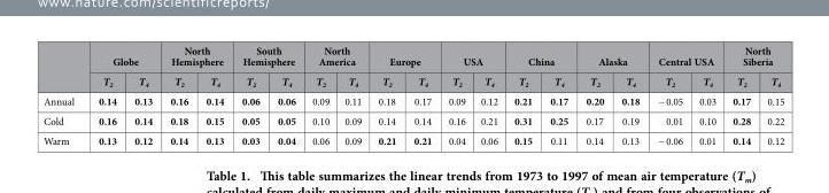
<table><thead><tr><td rowspan="2"></td><td colspan="2">Globe</td><td colspan="2">North Hemisphere</td><td colspan="2">South Hemisphere</td><td colspan="2">North America</td><td colspan="2">Europe</td><td colspan="2">USA</td><td colspan="2">China</td><td colspan="2">Alaska</td><td colspan="2">Central USA</td><td colspan="2">North Siberia</td></tr><tr><td>T<sub>2</sub></td><td>T<sub>4</sub></td><td>T<sub>2</sub></td><td>T<sub>4</sub></td><td>T<sub>2</sub></td><td>T<sub>4</sub></td><td>T<sub>2</sub></td><td>T<sub>4</sub></td><td>T<sub>2</sub></td><td>T<sub>4</sub></td><td>T<sub>2</sub></td><td>T<sub>4</sub></td><td>T<sub>2</sub></td><td>T<sub>4</sub></td><td>T<sub>2</sub></td><td>T<sub>4</sub></td><td>T<sub>2</sub></td><td>T<sub>4</sub></td><td>T<sub>2</sub></td><td>T<sub>4</sub></td></tr></thead><tbody><tr><td>Annual</td><td>0.14</td><td>0.13</td><td>0.16</td><td>0.14</td><td>0.06</td><td>0.06</td><td>0.09</td><td>0.11</td><td>0.18</td><td>0.17</td><td>0.09</td><td>0.12</td><td>0.21</td><td>0.17</td><td>0.20</td><td>0.18</td><td>− 0.05</td><td>0.03</td><td>0.17</td><td>0.15</td></tr><tr><td>Cold</td><td>0.16</td><td>0.14</td><td>0.18</td><td>0.15</td><td>0.05</td><td>0.05</td><td>0.10</td><td>0.09</td><td>0.14</td><td>0.14</td><td>0.16</td><td>0.21</td><td>0.31</td><td>0.25</td><td>0.17</td><td>0.19</td><td>0.01</td><td>0.10</td><td>0.28</td><td>0.22</td></tr><tr><td>Warm</td><td>0.13</td><td>0.12</td><td>0.14</td><td>0.13</td><td>0.03</td><td>0.04</td><td>0.06</td><td>0.09</td><td>0.21</td><td>0.21</td><td>0.04</td><td>0.06</td><td>0.15</td><td>0.11</td><td>0.14</td><td>0.13</td><td>− 0.06</td><td>0.01</td><td>0.14</td><td>0.12</td></tr></tbody></table>